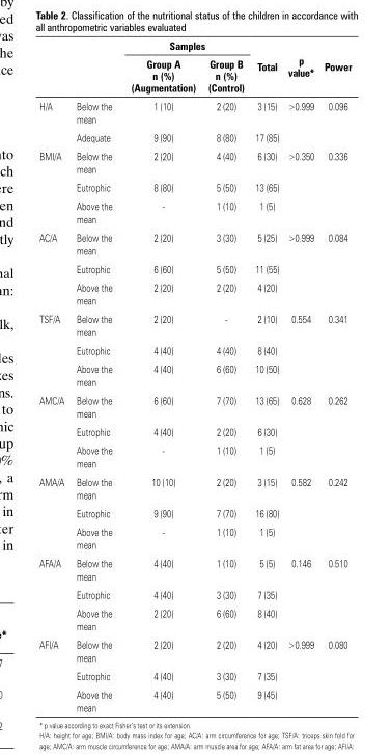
<table><thead><tr><td rowspan="2"></td><td rowspan="2"></td><td colspan="2">Samples</td><td rowspan="2">Total</td><td rowspan="2">p value*</td><td rowspan="2">Power</td></tr><tr><td>Group A n (%) (Augmentation)</td><td>Group B n (%) (Control)</td></tr></thead><tbody><tr><td rowspan="2">H/A</td><td>Below the mean</td><td>1 (10)</td><td>2 (20)</td><td>3 (15)</td><td>&gt;0.999</td><td>0.096</td></tr><tr><td>Adequate</td><td>9 (90)</td><td>8 (80)</td><td>17 (85)</td><td></td><td></td></tr><tr><td rowspan="3">BMI/A</td><td>Below the mean</td><td>2 (20)</td><td>4 (40)</td><td>6 (30)</td><td>&gt;0.350</td><td>0.336</td></tr><tr><td>Eutrophic</td><td>8 (80)</td><td>5 (50)</td><td>13 (65)</td><td></td><td></td></tr><tr><td>Above the mean</td><td>-</td><td>1 (10)</td><td>1 (5)</td><td></td><td></td></tr><tr><td rowspan="3">AC/A</td><td>Below the mean</td><td>2 (20)</td><td>3 (30)</td><td>5 (25)</td><td>&gt;0.999</td><td>0.084</td></tr><tr><td>Eutrophic</td><td>6 (60)</td><td>5 (50)</td><td>11 (55)</td><td></td><td></td></tr><tr><td>Above the mean</td><td>2 (20)</td><td>2 (20)</td><td>4 (20)</td><td></td><td></td></tr><tr><td rowspan="3">TSF/A</td><td>Below the mean</td><td>2 (20)</td><td>-</td><td>2 (10)</td><td>0.554</td><td>0.341</td></tr><tr><td>Eutrophic</td><td>4 (40)</td><td>4 (40)</td><td>8 (40)</td><td></td><td></td></tr><tr><td>Above the mean</td><td>4 (40)</td><td>6 (60)</td><td>10 (50)</td><td></td><td></td></tr><tr><td rowspan="3">AMC/A</td><td>Below the mean</td><td>6 (60)</td><td>7 (70)</td><td>13 (65)</td><td>0.628</td><td>0.262</td></tr><tr><td>Eutrophic</td><td>4 (40)</td><td>2 (20)</td><td>6 (30)</td><td></td><td></td></tr><tr><td>Above the mean</td><td>-</td><td>1 (10)</td><td>1 (5)</td><td></td><td></td></tr><tr><td rowspan="3">AMA/A</td><td>Below the mean</td><td>10 (10)</td><td>2 (20)</td><td>3 (15)</td><td>0.582</td><td>0.242</td></tr><tr><td>Eutrophic</td><td>9 (90)</td><td>7 (70)</td><td>16 (80)</td><td></td><td></td></tr><tr><td>Above the mean</td><td>-</td><td>1 (10)</td><td>1 (5)</td><td></td><td></td></tr><tr><td rowspan="3">AFA/A</td><td>Below the mean</td><td>4 (40)</td><td>1 (10)</td><td>5 (5)</td><td>0.146</td><td>0.510</td></tr><tr><td>Eutrophic</td><td>4 (40)</td><td>3 (30)</td><td>7 (35)</td><td></td><td></td></tr><tr><td>Above the mean</td><td>2 (20)</td><td>6 (60)</td><td>8 (40)</td><td></td><td></td></tr><tr><td rowspan="3">AFI/A</td><td>Below the mean</td><td>2 (20)</td><td>2 (20)</td><td>4 (20)</td><td>&gt;0.999</td><td>0.080</td></tr><tr><td>Eutrophic</td><td>4 (40)</td><td>3 (30)</td><td>7 (35)</td><td></td><td></td></tr><tr><td>Above the mean</td><td>4 (40)</td><td>5 (50)</td><td>9 (45)</td><td></td><td></td></tr></tbody></table>